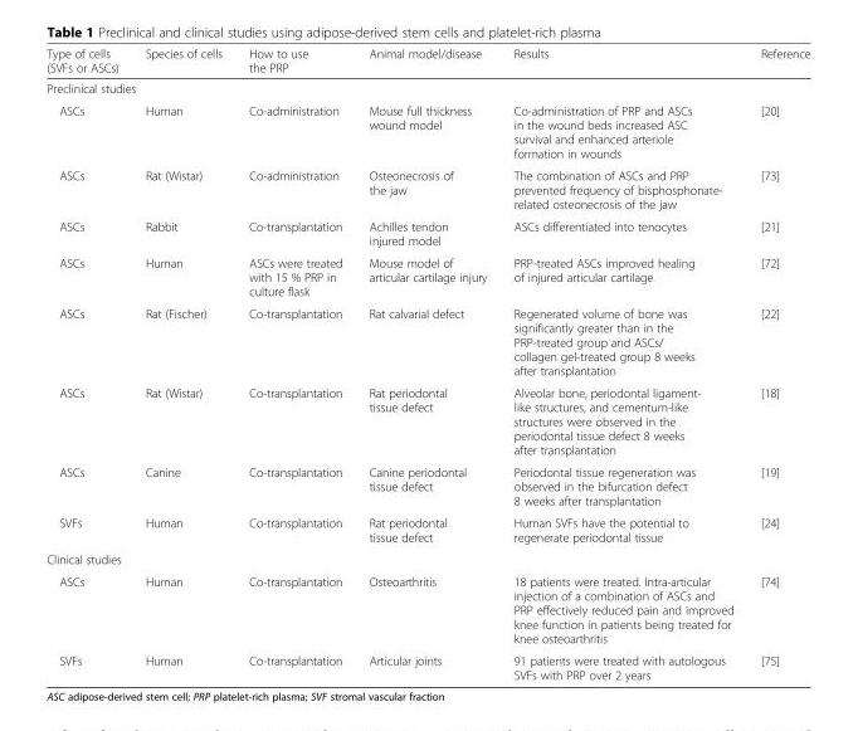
<table><thead><tr><td>Type of cells (SVFs or ASCs)</td><td>Species of cells</td><td>How to use the PRP</td><td>Animal model/disease</td><td>Results</td><td>Reference</td></tr></thead><tbody><tr><td colspan="6">Preclinical studies</td></tr><tr><td>ASCs</td><td>Human</td><td>Co-administration</td><td>Mouse full thickness wound model</td><td>Co-administration of PRP and ASCs in the wound beds increased ASC survival and enhanced arteriole formation in wounds</td><td>[20]</td></tr><tr><td>ASCs</td><td>Rat (Wistar)</td><td>Co-administration</td><td>Osteonecrosis of the jaw</td><td>The combination of ASCs and PRP prevented frequency of bisphosphonate- related osteonecrosis of the jaw</td><td>[73]</td></tr><tr><td>ASCs</td><td>Rabbit</td><td>Co-transplantation</td><td>Achilles tendon injured model</td><td>ASCs differentiated into tenocytes</td><td>[21]</td></tr><tr><td>ASCs</td><td>Human</td><td>ASCs were treated with 15 % PRP in culture flask</td><td>Mouse model of articular cartilage injury</td><td>PRP-treated ASCs improved healing of injured articular cartilage</td><td>[72]</td></tr><tr><td>ASCs</td><td>Rat (Fischer)</td><td>Co-transplantation</td><td>Rat calvarial defect</td><td>Regenerated volume of bone was significantly greater than in the PRP-treated group and ASCs/ collagen gel-treated group 8 weeks after transplantation</td><td>[22]</td></tr><tr><td>ASCs</td><td>Rat (Wistar)</td><td>Co-transplantation</td><td>Rat periodontal tissue defect</td><td>Alveolar bone, periodontal ligament- like structures, and cementum-like structures were observed in the periodontal tissue defect 8 weeks after transplantation</td><td>[18]</td></tr><tr><td>ASCs</td><td>Canine</td><td>Co-transplantation</td><td>Canine periodontal tissue defect</td><td>Periodontal tissue regeneration was observed in the bifurcation defect 8 weeks after transplantation</td><td>[19]</td></tr><tr><td>SVFs</td><td>Human</td><td>Co-transplantation</td><td>Rat periodontal tissue defect</td><td>Human SVFs have the potential to regenerate periodontal tissue</td><td>[24]</td></tr><tr><td colspan="6">Clinical studies</td></tr><tr><td>ASCs</td><td>Human</td><td>Co-transplantation</td><td>Osteoarthritis</td><td>18 patients were treated. Intra-articular injection of a combination of ASCs and PRP effectively reduced pain and improved knee function in patients being treated for knee osteoarthritis</td><td>[74]</td></tr><tr><td>SVFs</td><td>Human</td><td>Co-transplantation</td><td>Articular joints</td><td>91 patients were treated with autologous SVFs with PRP over 2 years</td><td>[75]</td></tr></tbody></table>